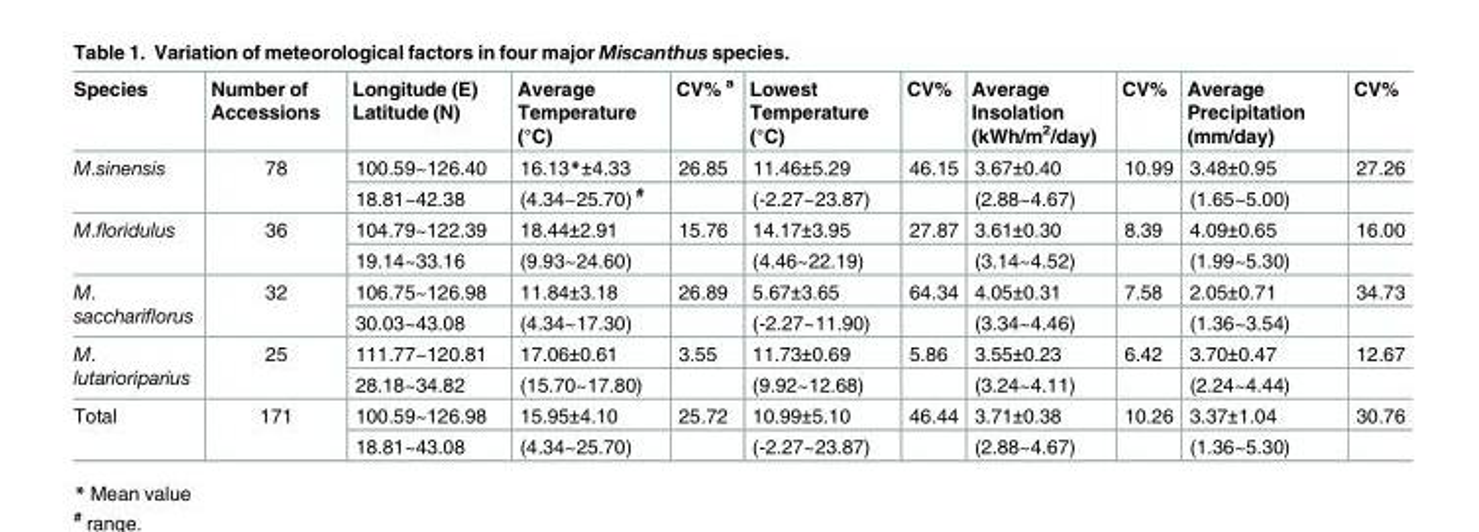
<table><thead><tr><td>Species</td><td>Number of Accessions</td><td>Longitude (E) Latitude (N)</td><td>Average Temperature (°C)</td><td>CV% <sup>a</sup></td><td>Lowest Temperature (°C)</td><td>CV%</td><td>Average Insolation (kWh/m<sup>2</sup>/day)</td><td>CV%</td><td>Average Precipitation (mm/day)</td><td>CV%</td></tr></thead><tbody><tr><td rowspan="2">M.sinensis</td><td rowspan="2">78</td><td>100.59~126.40</td><td>16.13*±4.33</td><td>26.85</td><td>11.46±5.29</td><td>46.15</td><td>3.67±0.40</td><td>10.99</td><td>3.48±0.95</td><td>27.26</td></tr><tr><td>18.81~42.38</td><td>(4.34~25.70) <sup>#</sup></td><td></td><td>(-2.27~23.87)</td><td></td><td>(2.88~4.67)</td><td></td><td>(1.65~5.00)</td><td></td></tr><tr><td rowspan="2">M.floridulus</td><td rowspan="2">36</td><td>104.79~122.39</td><td>18.44±2.91</td><td>15.76</td><td>14.17±3.95</td><td>27.87</td><td>3.61±0.30</td><td>8.39</td><td>4.09±0.65</td><td>16.00</td></tr><tr><td>19.14~33.16</td><td>(9.93~24.60)</td><td></td><td>(4.46~22.19)</td><td></td><td>(3.14~4.52)</td><td></td><td>(1.99~5.30)</td><td></td></tr><tr><td rowspan="2">M. sacchariflorus</td><td rowspan="2">32</td><td>106.75~126.98</td><td>11.84±3.18</td><td>26.89</td><td>5.67±3.65</td><td>64.34</td><td>4.05±0.31</td><td>7.58</td><td>2.05±0.71</td><td>34.73</td></tr><tr><td>30.03~43.08</td><td>(4.34~17.30)</td><td></td><td>(-2.27~11.90)</td><td></td><td>(3.34~4.46)</td><td></td><td>(1.36~3.54)</td><td></td></tr><tr><td rowspan="2">M. lutarioriparius</td><td rowspan="2">25</td><td>111.77~120.81</td><td>17.06±0.61</td><td>3.55</td><td>11.73±0.69</td><td>5.86</td><td>3.55±0.23</td><td>6.42</td><td>3.70±0.47</td><td>12.67</td></tr><tr><td>28.18~34.82</td><td>(15.70~17.80)</td><td></td><td>(9.92~12.68)</td><td></td><td>(3.24~4.11)</td><td></td><td>(2.24~4.44)</td><td></td></tr><tr><td rowspan="2">Total</td><td rowspan="2">171</td><td>100.59~126.98</td><td>15.95±4.10</td><td>25.72</td><td>10.99±5.10</td><td>46.44</td><td>3.71±0.38</td><td>10.26</td><td>3.37±1.04</td><td>30.76</td></tr><tr><td>18.81~43.08</td><td>(4.34~25.70)</td><td></td><td>(-2.27~23.87)</td><td></td><td>(2.88~4.67)</td><td></td><td>(1.36~5.30)</td><td></td></tr></tbody></table>